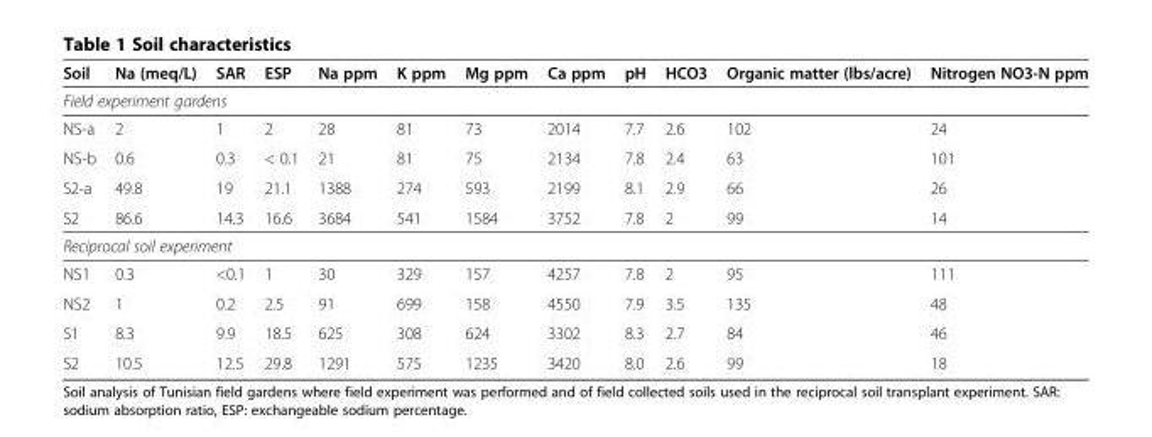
<table><thead><tr><td>Soil</td><td>Na (meq/L)</td><td>SAR</td><td>ESP</td><td>Na ppm</td><td>K ppm</td><td>Mg ppm</td><td>Ca ppm</td><td>pH</td><td>HCO3</td><td>Organic matter (lbs/acre)</td><td>Nitrogen NO3-N ppm</td></tr></thead><tbody><tr><td colspan="12">Field experiment gardens</td></tr><tr><td>NS-a</td><td>2</td><td>1</td><td>2</td><td>28</td><td>81</td><td>73</td><td>2014</td><td>7.7</td><td>2.6</td><td>102</td><td>24</td></tr><tr><td>NS-b</td><td>0.6</td><td>0.3</td><td>&lt; 0.1</td><td>21</td><td>81</td><td>75</td><td>2134</td><td>7.8</td><td>2.4</td><td>63</td><td>101</td></tr><tr><td>S2-a</td><td>49.8</td><td>19</td><td>21.1</td><td>1388</td><td>274</td><td>593</td><td>2199</td><td>8.1</td><td>2.9</td><td>66</td><td>26</td></tr><tr><td>S2</td><td>86.6</td><td>14.3</td><td>16.6</td><td>3684</td><td>541</td><td>1584</td><td>3752</td><td>7.8</td><td>2</td><td>99</td><td>14</td></tr><tr><td colspan="12">Reciprocal soil experiment</td></tr><tr><td>NS1</td><td>0.3</td><td>&lt;0.1</td><td>1</td><td>30</td><td>329</td><td>157</td><td>4257</td><td>7.8</td><td>2</td><td>95</td><td>111</td></tr><tr><td>NS2</td><td>1</td><td>0.2</td><td>2.5</td><td>91</td><td>699</td><td>158</td><td>4550</td><td>7.9</td><td>3.5</td><td>135</td><td>48</td></tr><tr><td>S1</td><td>8.3</td><td>9.9</td><td>18.5</td><td>625</td><td>308</td><td>624</td><td>3302</td><td>8.3</td><td>2.7</td><td>84</td><td>46</td></tr><tr><td>S2</td><td>10.5</td><td>12.5</td><td>29.8</td><td>1291</td><td>575</td><td>1235</td><td>3420</td><td>8.0</td><td>2.6</td><td>99</td><td>18</td></tr></tbody></table>